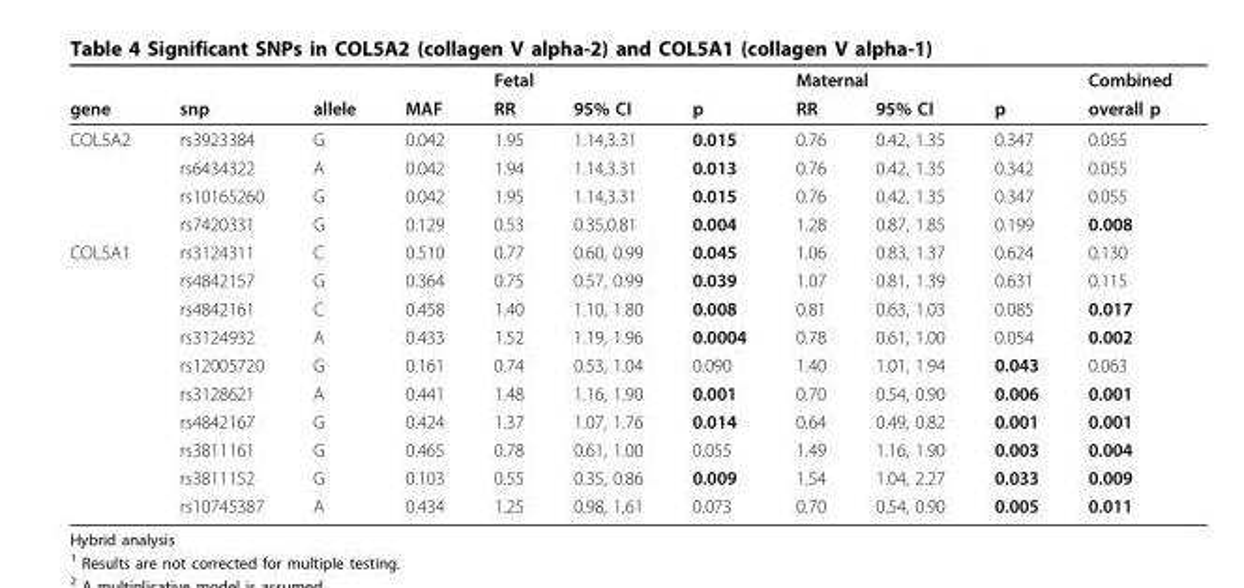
<table><thead><tr><td rowspan="2">gene</td><td rowspan="2">snp</td><td rowspan="2">allele</td><td rowspan="2">MAF</td><td colspan="3">Fetal</td><td colspan="3">Maternal</td><td rowspan="2">Combined overall p</td></tr><tr><td>RR</td><td>95% CI</td><td>p</td><td>RR</td><td>95% CI</td><td>p</td></tr></thead><tbody><tr><td rowspan="4">COL5A2</td><td>rs3923384</td><td>G</td><td>0.042</td><td>1.95</td><td>1.14,3.31</td><td>0.015</td><td>0.76</td><td>0.42, 1.35</td><td>0.347</td><td>0.055</td></tr><tr><td>rs6434322</td><td>A</td><td>0.042</td><td>1.94</td><td>1.14,3.31</td><td>0.013</td><td>0.76</td><td>0.42, 1.35</td><td>0.342</td><td>0.055</td></tr><tr><td>rs10165260</td><td>G</td><td>0.042</td><td>1.95</td><td>1.14,3.31</td><td>0.015</td><td>0.76</td><td>0.42, 1.35</td><td>0.347</td><td>0.055</td></tr><tr><td>rs7420331</td><td>G</td><td>0.129</td><td>0.53</td><td>0.35,0.81</td><td>0.004</td><td>1.28</td><td>0.87, 1.85</td><td>0.199</td><td>0.008</td></tr><tr><td rowspan="10">COL5A1</td><td>rs3124311</td><td>C</td><td>0.510</td><td>0.77</td><td>0.60, 0.99</td><td>0.045</td><td>1.06</td><td>0.83, 1.37</td><td>0.624</td><td>0.130</td></tr><tr><td>rs4842157</td><td>G</td><td>0.364</td><td>0.75</td><td>0.57, 0.99</td><td>0.039</td><td>1.07</td><td>0.81, 1.39</td><td>0.631</td><td>0.115</td></tr><tr><td>rs4842161</td><td>C</td><td>0.458</td><td>1.40</td><td>1.10, 1.80</td><td>0.008</td><td>0.81</td><td>0.63, 1.03</td><td>0.085</td><td>0.017</td></tr><tr><td>rs3124932</td><td>A</td><td>0.433</td><td>1.52</td><td>1.19, 1.96</td><td>0.0004</td><td>0.78</td><td>0.61, 1.00</td><td>0.054</td><td>0.002</td></tr><tr><td>rs12005720</td><td>G</td><td>0.161</td><td>0.74</td><td>0.53, 1.04</td><td>0.090</td><td>1.40</td><td>1.01, 1.94</td><td>0.043</td><td>0.063</td></tr><tr><td>rs3128621</td><td>A</td><td>0.441</td><td>1.48</td><td>1.16, 1.90</td><td>0.001</td><td>0.70</td><td>0.54, 0.90</td><td>0.006</td><td>0.001</td></tr><tr><td>rs4842167</td><td>G</td><td>0.424</td><td>1.37</td><td>1.07, 1.76</td><td>0.014</td><td>0.64</td><td>0.49, 0.82</td><td>0.001</td><td>0.001</td></tr><tr><td>rs3811161</td><td>G</td><td>0.465</td><td>0.78</td><td>0.61, 1.00</td><td>0.055</td><td>1.49</td><td>1.16, 1.90</td><td>0.003</td><td>0.004</td></tr><tr><td>rs3811152</td><td>G</td><td>0.103</td><td>0.55</td><td>0.35, 0.86</td><td>0.009</td><td>1.54</td><td>1.04, 2.27</td><td>0.033</td><td>0.009</td></tr><tr><td>rs10745387</td><td>A</td><td>0.434</td><td>1.25</td><td>0.98, 1,61</td><td>0.073</td><td>0.70</td><td>0.54, 0.90</td><td>0.005</td><td>0.011</td></tr></tbody></table>